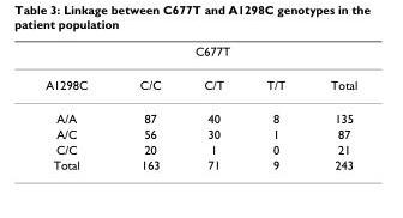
<table><thead><tr><td rowspan="2">A1298C</td><td colspan="3">C677T</td><td rowspan="2">Total</td></tr><tr><td>C/C</td><td>C/T</td><td>T/T</td></tr></thead><tbody><tr><td>A/A</td><td>87</td><td>40</td><td>8</td><td>135</td></tr><tr><td>A/C</td><td>56</td><td>30</td><td>1</td><td>87</td></tr><tr><td>C/C</td><td>20</td><td>1</td><td>0</td><td>21</td></tr><tr><td>Total</td><td>163</td><td>71</td><td>9</td><td>243</td></tr></tbody></table>